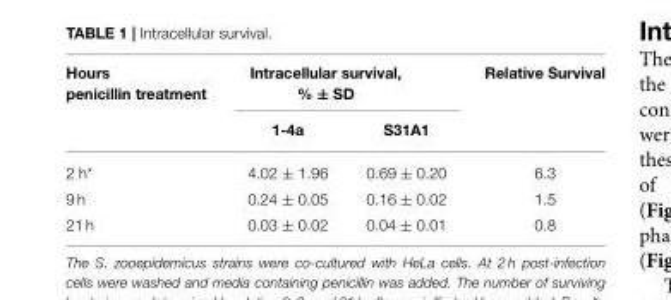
<table><thead><tr><td rowspan="2">Hours penicillin treatment</td><td colspan="2">Intracellular survival, % ± SD</td><td rowspan="2">Relative Survival</td></tr><tr><td>1-4a</td><td>S31A1</td></tr></thead><tbody><tr><td>2 h*</td><td>4.02 ± 1.96</td><td>0.69 ± 0.20</td><td>6.3</td></tr><tr><td>9 h</td><td>0.24 ± 0.05</td><td>0.16 ± 0.02</td><td>1.5</td></tr><tr><td>21 h</td><td>0.03 ± 0.02</td><td>0.04 ± 0.01</td><td>0.8</td></tr></tbody></table>